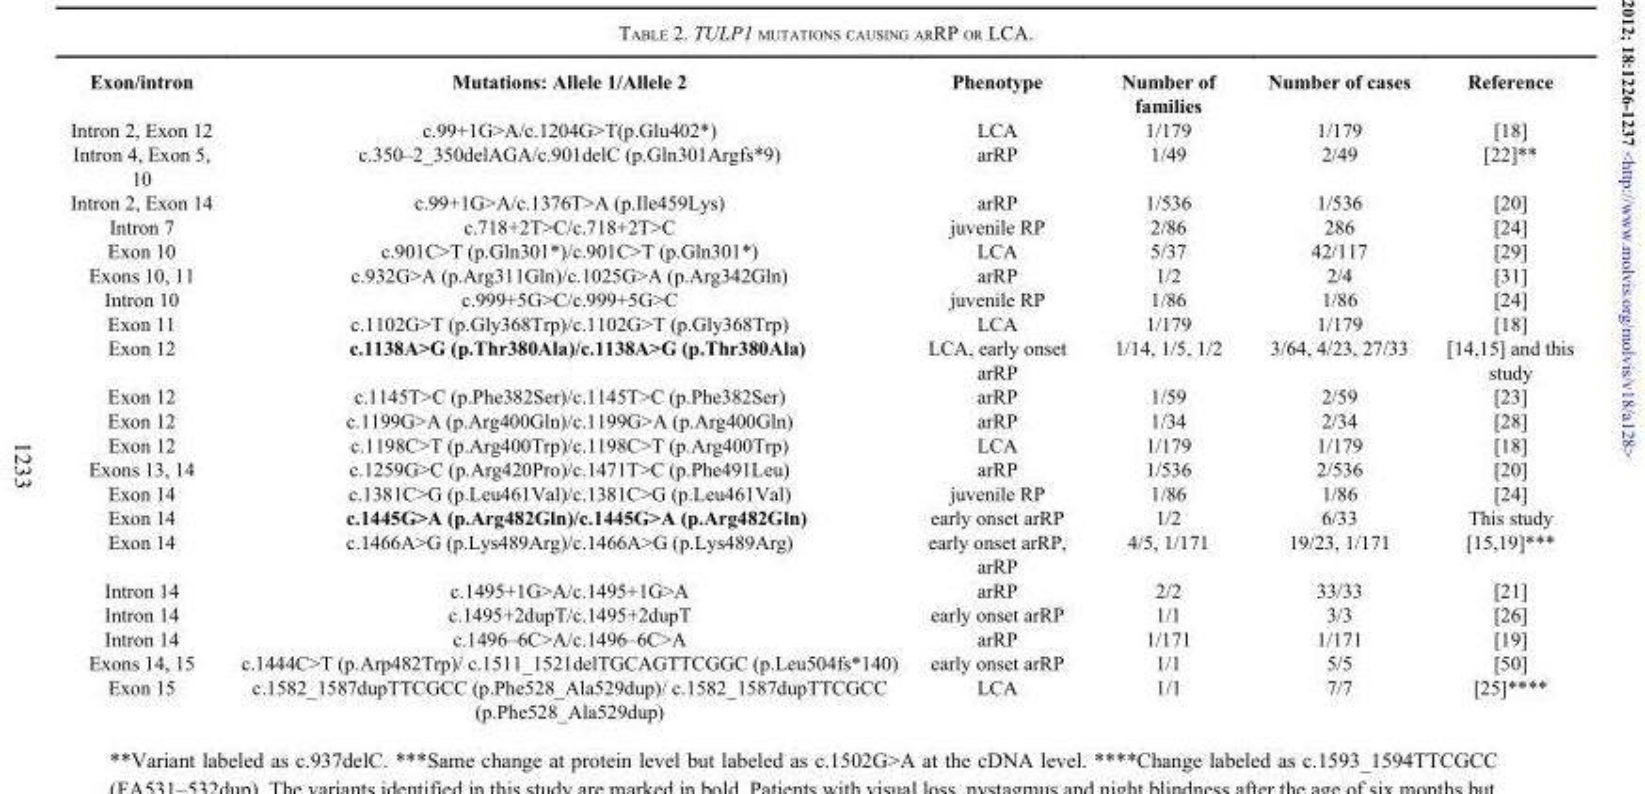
<table><thead><tr><td>Exon/intron</td><td>Mutations: Allele 1/Allele 2</td><td>Phenotype</td><td>Number of families</td><td>Number of cases</td><td>Reference</td></tr></thead><tbody><tr><td>Intron 2, Exon 12</td><td>c.99+1G&gt;A/c.1204G&gt;T(p.Glu402*)</td><td>LCA</td><td>1/179</td><td>1/179</td><td>[18]</td></tr><tr><td>Intron 4, Exon 5, 10</td><td>c.350–2_350delAGA/c.901delC (p.Gln301Argfs*9)</td><td>arRP</td><td>1/49</td><td>2/49</td><td>[22]**</td></tr><tr><td>Intron 2, Exon 14</td><td>c.99+1G&gt;A/c.1376T&gt;A (p.Ile459Lys)</td><td>arRP</td><td>1/536</td><td>1/536</td><td>[20]</td></tr><tr><td>Intron 7</td><td>c.718+2T&gt;C/c.718+2T&gt;C</td><td>juvenile RP</td><td>2/86</td><td>286</td><td>[24]</td></tr><tr><td>Exon 10</td><td>c.901C&gt;T (p.Gln301*)/c.901C&gt;T (p.Gln301*)</td><td>LCA</td><td>5/37</td><td>42/117</td><td>[29]</td></tr><tr><td>Exons 10, 11</td><td>c.932G&gt;A (p.Arg311Gln)/c.1025G&gt;A (p.Arg342Gln)</td><td>arRP</td><td>1/2</td><td>2/4</td><td>[31]</td></tr><tr><td>Intron 10</td><td>c.999+5G&gt;C/c.999+5G&gt;C</td><td>juvenile RP</td><td>1/86</td><td>1/86</td><td>[24]</td></tr><tr><td>Exon 11</td><td>c.1102G&gt;T (p.Gly368Trp)/c.1102G&gt;T (p.Gly368Trp)</td><td>LCA</td><td>1/179</td><td>1/179</td><td>[18]</td></tr><tr><td>Exon 12</td><td>c.1138A&gt;G (p.Thr380Ala)/c.1138A&gt;G (p.Thr380Ala)</td><td>LCA, early onset arRP</td><td>1/14, 1/5, 1/2</td><td>3/64, 4/23, 27/33</td><td>[14,15] and this study</td></tr><tr><td>Exon 12</td><td>c.1145T&gt;C (p.Phe382Ser)/c.1145T&gt;C (p.Phe382Ser)</td><td>arRP</td><td>1/59</td><td>2/59</td><td>[23]</td></tr><tr><td>Exon 12</td><td>c.1199G&gt;A (p.Arg400Gln)/c.1199G&gt;A (p.Arg400Gln)</td><td>arRP</td><td>1/34</td><td>2/34</td><td>[28]</td></tr><tr><td>Exon 12</td><td>c.1198C&gt;T (p.Arg400Trp)/c.1198C&gt;T (p.Arg400Trp)</td><td>LCA</td><td>1/179</td><td>1/179</td><td>[18]</td></tr><tr><td>Exons 13, 14</td><td>c.1259G&gt;C (p.Arg420Pro)/c.1471T&gt;C (p.Phe491Leu)</td><td>arRP</td><td>1/536</td><td>2/536</td><td>[20]</td></tr><tr><td>Exon 14</td><td>c.1381C&gt;G (p.Leu461Val)/c.1381C&gt;G (p.Leu461Val)</td><td>juvenile RP</td><td>1/86</td><td>1/86</td><td>[24]</td></tr><tr><td>Exon 14</td><td>c.1445G&gt;A (p.Arg482Gln)/c.1445G&gt;A (p.Arg482Gln)</td><td>early onset arRP</td><td>1/2</td><td>6/33</td><td>This study</td></tr><tr><td>Exon 14</td><td>c.1466A&gt;G (p.Lys489Arg)/c.1466A&gt;G (p.Lys489Arg)</td><td>early onset arRP, arRP</td><td>4/5, 1/171</td><td>19/23, 1/171</td><td>[15,19]***</td></tr><tr><td>Intron 14</td><td>c.1495+1G&gt;A/c.1495+1G&gt;A</td><td>arRP</td><td>2/2</td><td>33/33</td><td>[21]</td></tr><tr><td>Intron 14</td><td>c.1495+2dupT/c.1495+2dupT</td><td>early onset arRP</td><td>1/1</td><td>3/3</td><td>[26]</td></tr><tr><td>Intron 14</td><td>c.1496–6C&gt;A/c.1496–6C&gt;A</td><td>arRP</td><td>1/171</td><td>1/171</td><td>[19]</td></tr><tr><td>Exons 14, 15</td><td>c.1444C&gt;T (p.Arp482Trp)/ c.1511_1521delTGCAGTTCGGC (p.Leu504fs*140)</td><td>early onset arRP</td><td>1/1</td><td>5/5</td><td>[50]</td></tr><tr><td>Exon 15</td><td>c.1582_1587dupTTCGCC (p.Phe528_Ala529dup)/ c.1582_1587dupTTCGCC (p.Phe528_Ala529dup)</td><td>LCA</td><td>1/1</td><td>7/7</td><td>[25]****</td></tr></tbody></table>